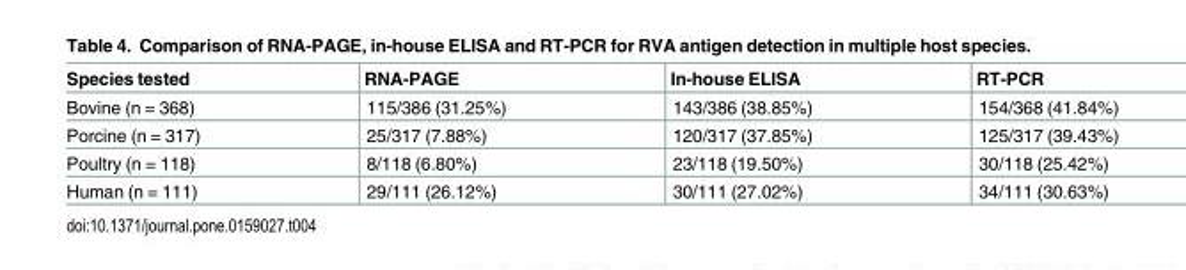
<table><thead><tr><td>Species tested</td><td>RNA-PAGE</td><td>In-house ELISA</td><td>RT-PCR</td></tr></thead><tbody><tr><td>Bovine (n = 368)</td><td>115/386 (31.25%)</td><td>143/386 (38.85%)</td><td>154/368 (41.84%)</td></tr><tr><td>Porcine (n = 317)</td><td>25/317 (7.88%)</td><td>120/317 (37.85%)</td><td>125/317 (39.43%)</td></tr><tr><td>Poultry (n = 118)</td><td>8/118 (6.80%)</td><td>23/118 (19.50%)</td><td>30/118 (25.42%)</td></tr><tr><td>Human (n = 111)</td><td>29/111 (26.12%)</td><td>30/111 (27.02%)</td><td>34/111 (30.63%)</td></tr></tbody></table>